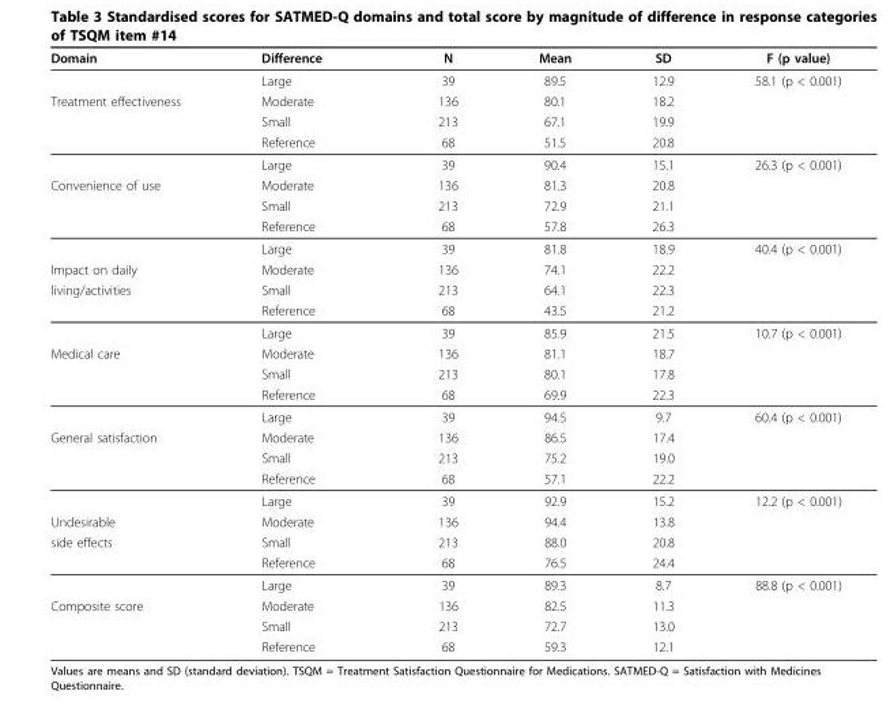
<table><thead><tr><td>Domain</td><td>Difference</td><td>N</td><td>Mean</td><td>SD</td><td>F (p value)</td></tr></thead><tbody><tr><td></td><td>Large</td><td>39</td><td>89.5</td><td>12.9</td><td>58.1 (p &lt; 0.001)</td></tr><tr><td rowspan="4">Treatment effectiveness</td><td>Moderate</td><td>136</td><td>80.1</td><td>18.2</td><td></td></tr><tr><td>Small</td><td>213</td><td>67.1</td><td>19.9</td><td></td></tr><tr><td>Reference</td><td>68</td><td>51.5</td><td>20.8</td><td></td></tr><tr><td>Large</td><td>39</td><td>90.4</td><td>15.1</td><td>26.3 (p &lt; 0.001)</td></tr><tr><td rowspan="4">Convenience of use</td><td>Moderate</td><td>136</td><td>81.3</td><td>20.8</td><td></td></tr><tr><td>Small</td><td>213</td><td>72.9</td><td>21.1</td><td></td></tr><tr><td>Reference</td><td>68</td><td>57.8</td><td>26.3</td><td></td></tr><tr><td>Large</td><td>39</td><td>81.8</td><td>18.9</td><td>40.4 (p &lt; 0.001)</td></tr><tr><td>Impact on daily</td><td>Moderate</td><td>136</td><td>74.1</td><td>22.2</td><td></td></tr><tr><td rowspan="3">living/activities</td><td>Small</td><td>213</td><td>64.1</td><td>22.3</td><td></td></tr><tr><td>Reference</td><td>68</td><td>43.5</td><td>21.2</td><td></td></tr><tr><td>Large</td><td>39</td><td>85.9</td><td>21.5</td><td>10.7 (p &lt; 0.001)</td></tr><tr><td rowspan="4">Medical care</td><td>Moderate</td><td>136</td><td>81.1</td><td>18.7</td><td></td></tr><tr><td>Small</td><td>213</td><td>80.1</td><td>17.8</td><td></td></tr><tr><td>Reference</td><td>68</td><td>69.9</td><td>22.3</td><td></td></tr><tr><td>Large</td><td>39</td><td>94.5</td><td>9.7</td><td>60.4 (p &lt; 0.001)</td></tr><tr><td rowspan="4">General satisfaction</td><td>Moderate</td><td>136</td><td>86.5</td><td>17.4</td><td></td></tr><tr><td>Small</td><td>213</td><td>75.2</td><td>19.0</td><td></td></tr><tr><td>Reference</td><td>68</td><td>57.1</td><td>22.2</td><td></td></tr><tr><td>Large</td><td>39</td><td>92.9</td><td>15.2</td><td>12.2 (p &lt; 0.001)</td></tr><tr><td>Undesirable</td><td>Moderate</td><td>136</td><td>94.4</td><td>13.8</td><td></td></tr><tr><td rowspan="3">side effects</td><td>Small</td><td>213</td><td>88.0</td><td>20.8</td><td></td></tr><tr><td>Reference</td><td>68</td><td>76.5</td><td>24.4</td><td></td></tr><tr><td>Large</td><td>39</td><td>89.3</td><td>8.7</td><td>88.8 (p &lt; 0.001)</td></tr><tr><td rowspan="3">Composite score</td><td>Moderate</td><td>136</td><td>82.5</td><td>11.3</td><td></td></tr><tr><td>Small</td><td>213</td><td>72.7</td><td>13.0</td><td></td></tr><tr><td>Reference</td><td>68</td><td>59.3</td><td>12.1</td><td></td></tr></tbody></table>